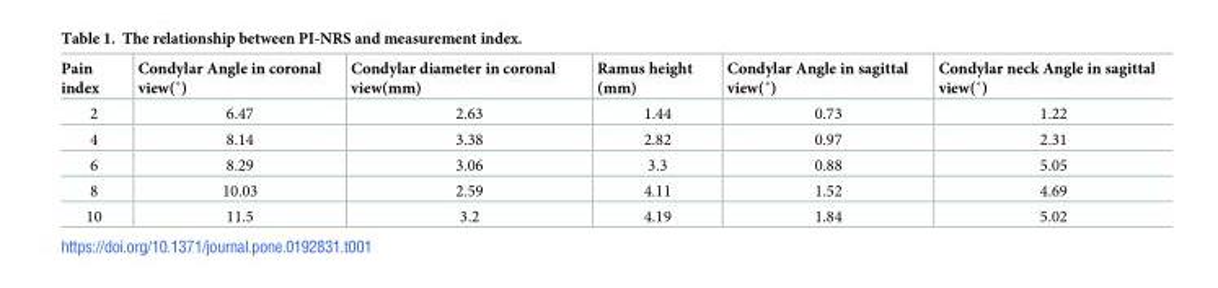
<table><thead><tr><td>Pain index</td><td>Condylar Angle in coronal view(˚)</td><td>Condylar diameter in coronal view(mm)</td><td>Ramus height (mm)</td><td>Condylar Angle in sagittal view(˚)</td><td>Condylar neck Angle in sagittal view(˚)</td></tr></thead><tbody><tr><td>2</td><td>6.47</td><td>2.63</td><td>1.44</td><td>0.73</td><td>1.22</td></tr><tr><td>4</td><td>8.14</td><td>3.38</td><td>2.82</td><td>0.97</td><td>2.31</td></tr><tr><td>6</td><td>8.29</td><td>3.06</td><td>3.3</td><td>0.88</td><td>5.05</td></tr><tr><td>8</td><td>10.03</td><td>2.59</td><td>4.11</td><td>1.52</td><td>4.69</td></tr><tr><td>10</td><td>11.5</td><td>3.2</td><td>4.19</td><td>1.84</td><td>5.02</td></tr></tbody></table>